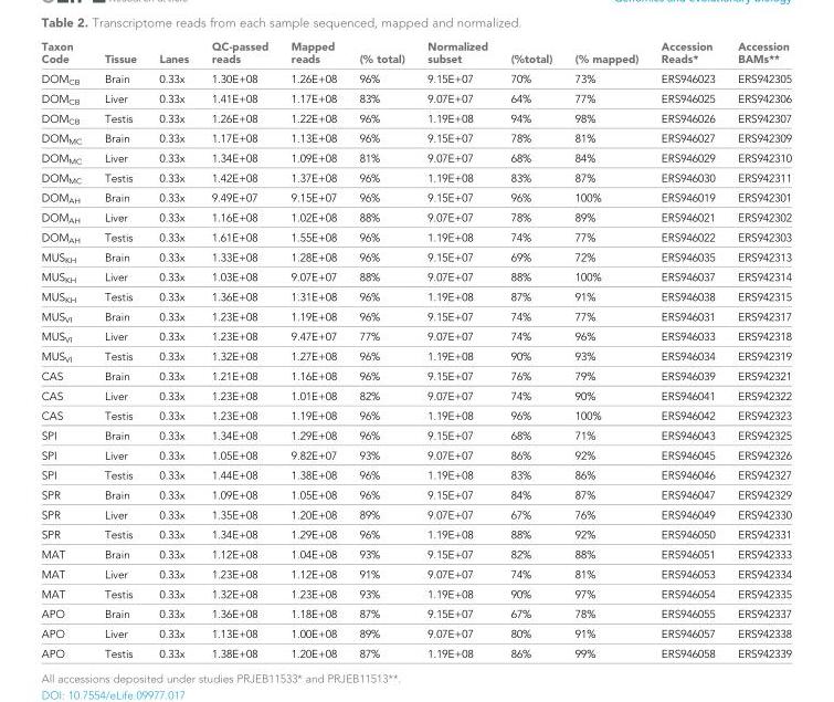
<table><thead><tr><td>Taxon Code</td><td>Tissue</td><td>Lanes</td><td>QC-passed reads</td><td>Mapped reads</td><td>(% total)</td><td>Normalized subset</td><td>(%total)</td><td>(% mapped)</td><td>Accession Reads*</td><td>Accession BAMs**</td></tr></thead><tbody><tr><td>DOM<sub>CB</sub></td><td>Brain</td><td>0.33x</td><td>1.30E+08</td><td>1.26E+08</td><td>96%</td><td>9.15E+07</td><td>70%</td><td>73%</td><td>ERS946023</td><td>ERS942305</td></tr><tr><td>DOM<sub>CB</sub></td><td>Liver</td><td>0.33x</td><td>1.41E+08</td><td>1.17E+08</td><td>83%</td><td>9.07E+07</td><td>64%</td><td>77%</td><td>ERS946025</td><td>ERS942306</td></tr><tr><td>DOM<sub>CB</sub></td><td>Testis</td><td>0.33x</td><td>1.26E+08</td><td>1.22E+08</td><td>96%</td><td>1.19E+08</td><td>94%</td><td>98%</td><td>ERS946026</td><td>ERS942307</td></tr><tr><td>DOM<sub>MC</sub></td><td>Brain</td><td>0.33x</td><td>1.17E+08</td><td>1.13E+08</td><td>96%</td><td>9.15E+07</td><td>78%</td><td>81%</td><td>ERS946027</td><td>ERS942309</td></tr><tr><td>DOM<sub>MC</sub></td><td>Liver</td><td>0.33x</td><td>1.34E+08</td><td>1.09E+08</td><td>81%</td><td>9.07E+07</td><td>68%</td><td>84%</td><td>ERS946029</td><td>ERS942310</td></tr><tr><td>DOM<sub>MC</sub></td><td>Testis</td><td>0.33x</td><td>1.42E+08</td><td>1.37E+08</td><td>96%</td><td>1.19E+08</td><td>83%</td><td>87%</td><td>ERS946030</td><td>ERS942311</td></tr><tr><td>DOM<sub>AH</sub></td><td>Brain</td><td>0.33x</td><td>9.49E+07</td><td>9.15E+07</td><td>96%</td><td>9.15E+07</td><td>96%</td><td>100%</td><td>ERS946019</td><td>ERS942301</td></tr><tr><td>DOM<sub>AH</sub></td><td>Liver</td><td>0.33x</td><td>1.16E+08</td><td>1.02E+08</td><td>88%</td><td>9.07E+07</td><td>78%</td><td>89%</td><td>ERS946021</td><td>ERS942302</td></tr><tr><td>DOM<sub>AH</sub></td><td>Testis</td><td>0.33x</td><td>1.61E+08</td><td>1.55E+08</td><td>96%</td><td>1.19E+08</td><td>74%</td><td>77%</td><td>ERS946022</td><td>ERS942303</td></tr><tr><td>MUS<sub>KH</sub></td><td>Brain</td><td>0.33x</td><td>1.33E+08</td><td>1.28E+08</td><td>96%</td><td>9.15E+07</td><td>69%</td><td>72%</td><td>ERS946035</td><td>ERS942313</td></tr><tr><td>MUS<sub>KH</sub></td><td>Liver</td><td>0.33x</td><td>1.03E+08</td><td>9.07E+07</td><td>88%</td><td>9.07E+07</td><td>88%</td><td>100%</td><td>ERS946037</td><td>ERS942314</td></tr><tr><td>MUS<sub>KH</sub></td><td>Testis</td><td>0.33x</td><td>1.36E+08</td><td>1.31E+08</td><td>96%</td><td>1.19E+08</td><td>87%</td><td>91%</td><td>ERS946038</td><td>ERS942315</td></tr><tr><td>MUS<sub>VI</sub></td><td>Brain</td><td>0.33x</td><td>1.23E+08</td><td>1.19E+08</td><td>96%</td><td>9.15E+07</td><td>74%</td><td>77%</td><td>ERS946031</td><td>ERS942317</td></tr><tr><td>MUS<sub>VI</sub></td><td>Liver</td><td>0.33x</td><td>1.23E+08</td><td>9.47E+07</td><td>77%</td><td>9.07E+07</td><td>74%</td><td>96%</td><td>ERS946033</td><td>ERS942318</td></tr><tr><td>MUS<sub>VI</sub></td><td>Testis</td><td>0.33x</td><td>1.32E+08</td><td>1.27E+08</td><td>96%</td><td>1.19E+08</td><td>90%</td><td>93%</td><td>ERS946034</td><td>ERS942319</td></tr><tr><td>CAS</td><td>Brain</td><td>0.33x</td><td>1.21E+08</td><td>1.16E+08</td><td>96%</td><td>9.15E+07</td><td>76%</td><td>79%</td><td>ERS946039</td><td>ERS942321</td></tr><tr><td>CAS</td><td>Liver</td><td>0.33x</td><td>1.23E+08</td><td>1.01E+08</td><td>82%</td><td>9.07E+07</td><td>74%</td><td>90%</td><td>ERS946041</td><td>ERS942322</td></tr><tr><td>CAS</td><td>Testis</td><td>0.33x</td><td>1.23E+08</td><td>1.19E+08</td><td>96%</td><td>1.19E+08</td><td>96%</td><td>100%</td><td>ERS946042</td><td>ERS942323</td></tr><tr><td>SPI</td><td>Brain</td><td>0.33x</td><td>1.34E+08</td><td>1.29E+08</td><td>96%</td><td>9.15E+07</td><td>68%</td><td>71%</td><td>ERS946043</td><td>ERS942325</td></tr><tr><td>SPI</td><td>Liver</td><td>0.33x</td><td>1.05E+08</td><td>9.82E+07</td><td>93%</td><td>9.07E+07</td><td>86%</td><td>92%</td><td>ERS946045</td><td>ERS942326</td></tr><tr><td>SPI</td><td>Testis</td><td>0.33x</td><td>1.44E+08</td><td>1.38E+08</td><td>96%</td><td>1.19E+08</td><td>83%</td><td>86%</td><td>ERS946046</td><td>ERS942327</td></tr><tr><td>SPR</td><td>Brain</td><td>0.33x</td><td>1.09E+08</td><td>1.05E+08</td><td>96%</td><td>9.15E+07</td><td>84%</td><td>87%</td><td>ERS946047</td><td>ERS942329</td></tr><tr><td>SPR</td><td>Liver</td><td>0.33x</td><td>1.35E+08</td><td>1.20E+08</td><td>89%</td><td>9.07E+07</td><td>67%</td><td>76%</td><td>ERS946049</td><td>ERS942330</td></tr><tr><td>SPR</td><td>Testis</td><td>0.33x</td><td>1.34E+08</td><td>1.29E+08</td><td>96%</td><td>1.19E+08</td><td>88%</td><td>92%</td><td>ERS946050</td><td>ERS942331</td></tr><tr><td>MAT</td><td>Brain</td><td>0.33x</td><td>1.12E+08</td><td>1.04E+08</td><td>93%</td><td>9.15E+07</td><td>82%</td><td>88%</td><td>ERS946051</td><td>ERS942333</td></tr><tr><td>MAT</td><td>Liver</td><td>0.33x</td><td>1.23E+08</td><td>1.12E+08</td><td>91%</td><td>9.07E+07</td><td>74%</td><td>81%</td><td>ERS946053</td><td>ERS942334</td></tr><tr><td>MAT</td><td>Testis</td><td>0.33x</td><td>1.32E+08</td><td>1.23E+08</td><td>93%</td><td>1.19E+08</td><td>90%</td><td>97%</td><td>ERS946054</td><td>ERS942335</td></tr><tr><td>APO</td><td>Brain</td><td>0.33x</td><td>1.36E+08</td><td>1.18E+08</td><td>87%</td><td>9.15E+07</td><td>67%</td><td>78%</td><td>ERS946055</td><td>ERS942337</td></tr><tr><td>APO</td><td>Liver</td><td>0.33x</td><td>1.13E+08</td><td>1.00E+08</td><td>89%</td><td>9.07E+07</td><td>80%</td><td>91%</td><td>ERS946057</td><td>ERS942338</td></tr><tr><td>APO</td><td>Testis</td><td>0.33x</td><td>1.38E+08</td><td>1.20E+08</td><td>87%</td><td>1.19E+08</td><td>86%</td><td>99%</td><td>ERS946058</td><td>ERS942339</td></tr></tbody></table>